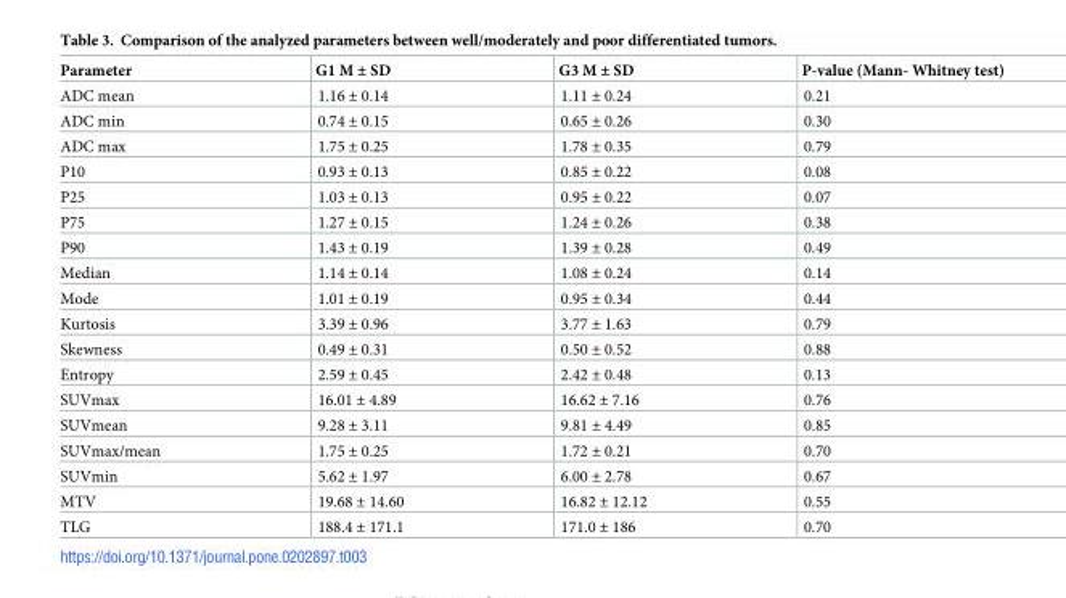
<table><thead><tr><td>Parameter</td><td>G1 M ± SD</td><td>G3 M ± SD</td><td>P-value (Mann- Whitney test)</td></tr></thead><tbody><tr><td>ADC mean</td><td>1.16 ± 0.14</td><td>1.11 ± 0.24</td><td>0.21</td></tr><tr><td>ADC min</td><td>0.74 ± 0.15</td><td>0.65 ± 0.26</td><td>0.30</td></tr><tr><td>ADC max</td><td>1.75 ± 0.25</td><td>1.78 ± 0.35</td><td>0.79</td></tr><tr><td>P10</td><td>0.93 ± 0.13</td><td>0.85 ± 0.22</td><td>0.08</td></tr><tr><td>P25</td><td>1.03 ± 0.13</td><td>0.95 ± 0.22</td><td>0.07</td></tr><tr><td>P75</td><td>1.27 ± 0.15</td><td>1.24 ± 0.26</td><td>0.38</td></tr><tr><td>P90</td><td>1.43 ± 0.19</td><td>1.39 ± 0.28</td><td>0.49</td></tr><tr><td>Median</td><td>1.14 ± 0.14</td><td>1.08 ± 0.24</td><td>0.14</td></tr><tr><td>Mode</td><td>1.01 ± 0.19</td><td>0.95 ± 0.34</td><td>0.44</td></tr><tr><td>Kurtosis</td><td>3.39 ± 0.96</td><td>3.77 ± 1.63</td><td>0.79</td></tr><tr><td>Skewness</td><td>0.49 ± 0.31</td><td>0.50 ± 0.52</td><td>0.88</td></tr><tr><td>Entropy</td><td>2.59 ± 0.45</td><td>2.42 ± 0.48</td><td>0.13</td></tr><tr><td>SUVmax</td><td>16.01 ± 4.89</td><td>16.62 ± 7.16</td><td>0.76</td></tr><tr><td>SUVmean</td><td>9.28 ± 3.11</td><td>9.81 ± 4.49</td><td>0.85</td></tr><tr><td>SUVmax/mean</td><td>1.75 ± 0.25</td><td>1.72 ± 0.21</td><td>0.70</td></tr><tr><td>SUVmin</td><td>5.62 ± 1.97</td><td>6.00 ± 2.78</td><td>0.67</td></tr><tr><td>MTV</td><td>19.68 ± 14.60</td><td>16.82 ± 12.12</td><td>0.55</td></tr><tr><td>TLG</td><td>188.4 ± 171.1</td><td>171.0 ± 186</td><td>0.70</td></tr></tbody></table>